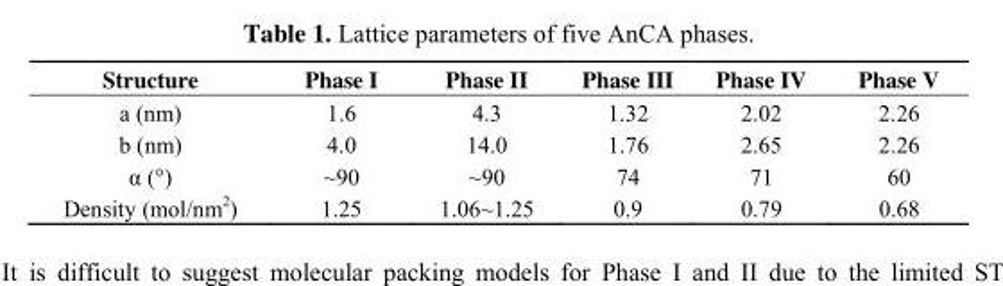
<table><thead><tr><td>Structure</td><td>Phase I</td><td>Phase II</td><td>Phase III</td><td>Phase IV</td><td>Phase V</td></tr></thead><tbody><tr><td>a (nm)</td><td>1.6</td><td>4.3</td><td>1.32</td><td>2.02</td><td>2.26</td></tr><tr><td>b (nm)</td><td>4.0</td><td>14.0</td><td>1.76</td><td>2.65</td><td>2.26</td></tr><tr><td>α (°)</td><td>~90</td><td>~90</td><td>74</td><td>71</td><td>60</td></tr><tr><td>Density (mol/nm<sup>2</sup>)</td><td>1.25</td><td>1.06~1.25</td><td>0.9</td><td>0.79</td><td>0.68</td></tr></tbody></table>